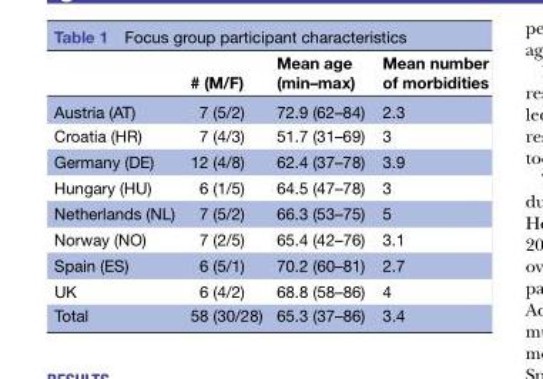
<table><thead><tr><td></td><td># (M/F)</td><td>Mean age (min–max)</td><td>Mean number of morbidities</td></tr></thead><tbody><tr><td>Austria (AT)</td><td>7 (5/2)</td><td>72.9 (62–84)</td><td>2.3</td></tr><tr><td>Croatia (HR)</td><td>7 (4/3)</td><td>51.7 (31–69)</td><td>3</td></tr><tr><td>Germany (DE)</td><td>12 (4/8)</td><td>62.4 (37–78)</td><td>3.9</td></tr><tr><td>Hungary (HU)</td><td>6 (1/5)</td><td>64.5 (47–78)</td><td>3</td></tr><tr><td>Netherlands (NL)</td><td>7 (5/2)</td><td>66.3 (53–75)</td><td>5</td></tr><tr><td>Norway (NO)</td><td>7 (2/5)</td><td>65.4 (42–76)</td><td>3.1</td></tr><tr><td>Spain (ES)</td><td>6 (5/1)</td><td>70.2 (60–81)</td><td>2.7</td></tr><tr><td>UK</td><td>6 (4/2)</td><td>68.8 (58–86)</td><td>4</td></tr><tr><td>Total</td><td>58 (30/28)</td><td>65.3 (37–86)</td><td>3.4</td></tr></tbody></table>